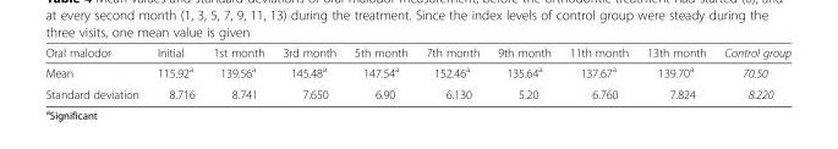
<table><thead><tr><td>Oral malodor</td><td>Initial</td><td>1st month</td><td>3rd month</td><td>5th month</td><td>7th month</td><td>9th month</td><td>11th month</td><td>13th month</td><td>Control group</td></tr></thead><tbody><tr><td>Mean</td><td>115.92<sup>a</sup></td><td>139.56<sup>a</sup></td><td>145.48<sup>a</sup></td><td>147.54<sup>a</sup></td><td>152.46<sup>a</sup></td><td>135.64<sup>a</sup></td><td>137.67<sup>a</sup></td><td>139.70<sup>a</sup></td><td>70.50</td></tr><tr><td>Standard deviation</td><td>8.716</td><td>8.741</td><td>7.650</td><td>6.90</td><td>6.130</td><td>5.20</td><td>6.760</td><td>7.824</td><td>8.220</td></tr></tbody></table>